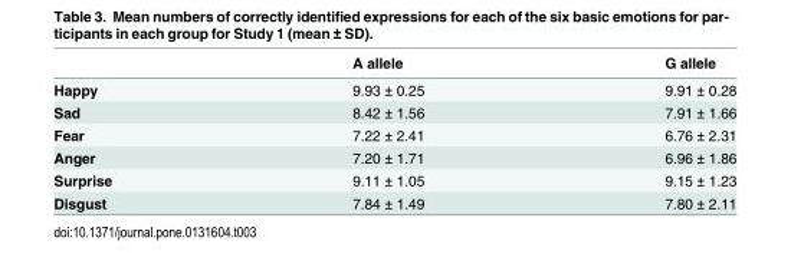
<table><thead><tr><td></td><td>A allele</td><td>G allele</td></tr></thead><tbody><tr><td>Happy</td><td>9.93 ± 0.25</td><td>9.91 ± 0.28</td></tr><tr><td>Sad</td><td>8.42 ± 1.56</td><td>7.91 ± 1.66</td></tr><tr><td>Fear</td><td>7.22 ± 2.41</td><td>6.76 ± 2.31</td></tr><tr><td>Anger</td><td>7.20 ± 1.71</td><td>6.96 ± 1.86</td></tr><tr><td>Surprise</td><td>9.11 ± 1.05</td><td>9.15 ± 1.23</td></tr><tr><td>Disgust</td><td>7.84 ± 1.49</td><td>7.80 ± 2.11</td></tr></tbody></table>